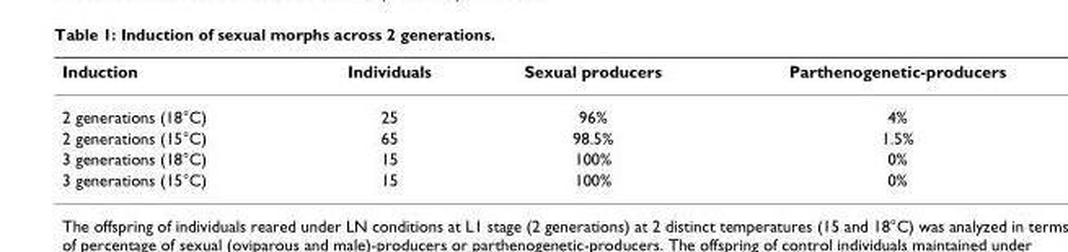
<table><thead><tr><td>Induction</td><td>Individuals</td><td>Sexual producers</td><td>Parthenogenetic-producers</td></tr></thead><tbody><tr><td>2 generations (18°C)</td><td>25</td><td>96%</td><td>4%</td></tr><tr><td>2 generations (15°C)</td><td>65</td><td>98.5%</td><td>1.5%</td></tr><tr><td>3 generations (18°C)</td><td>15</td><td>100%</td><td>0%</td></tr><tr><td>3 generations (15°C)</td><td>15</td><td>100%</td><td>0%</td></tr></tbody></table>